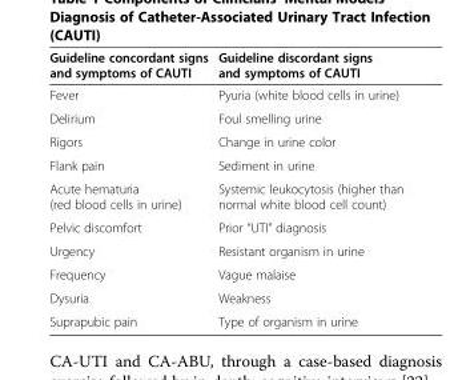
<table><thead><tr><td>Guideline concordant signs and symptoms of CAUTI</td><td>Guideline discordant signs and symptoms of CAUTI</td></tr></thead><tbody><tr><td>Fever</td><td>Pyuria (white blood cells in urine)</td></tr><tr><td>Delirium</td><td>Foul smelling urine</td></tr><tr><td>Rigors</td><td>Change in urine color</td></tr><tr><td>Flank pain</td><td>Sediment in urine</td></tr><tr><td>Acute hematuria (red blood cells in urine)</td><td>Systemic leukocytosis (higher than normal white blood cell count)</td></tr><tr><td>Pelvic discomfort</td><td>Prior “UTI” diagnosis</td></tr><tr><td>Urgency</td><td>Resistant organism in urine</td></tr><tr><td>Frequency</td><td>Vague malaise</td></tr><tr><td>Dysuria</td><td>Weakness</td></tr><tr><td>Suprapubic pain</td><td>Type of organism in urine</td></tr></tbody></table>